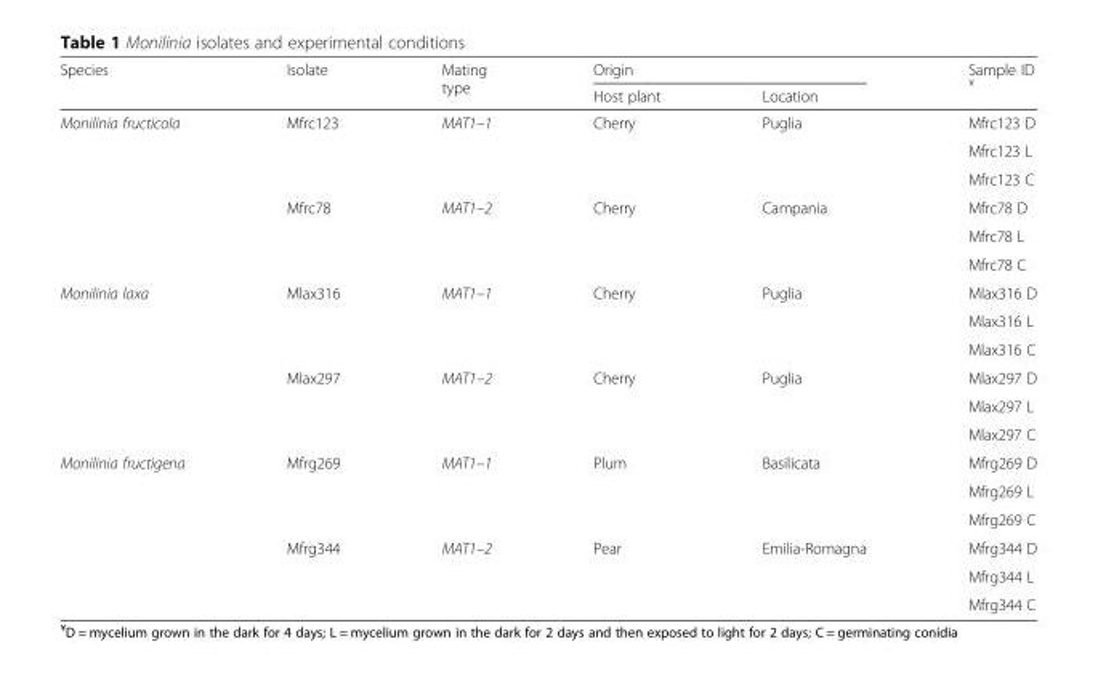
<table><thead><tr><td rowspan="2">Species</td><td rowspan="2">Isolate</td><td rowspan="2">Mating type</td><td colspan="2">Origin</td><td rowspan="2">Sample ID <sup>¥</sup></td></tr><tr><td>Host plant</td><td>Location</td></tr></thead><tbody><tr><td rowspan="6">Monilinia fructicola</td><td rowspan="3">Mfrc123</td><td rowspan="3">MAT1–1</td><td rowspan="3">Cherry</td><td rowspan="3">Puglia</td><td>Mfrc123 D</td></tr><tr><td>Mfrc123 L</td></tr><tr><td>Mfrc123 C</td></tr><tr><td rowspan="3">Mfrc78</td><td rowspan="3">MAT1–2</td><td rowspan="3">Cherry</td><td rowspan="3">Campania</td><td>Mfrc78 D</td></tr><tr><td>Mfrc78 L</td></tr><tr><td>Mfrc78 C</td></tr><tr><td rowspan="6">Monilinia laxa</td><td rowspan="3">Mlax316</td><td rowspan="3">MAT1–1</td><td rowspan="3">Cherry</td><td rowspan="3">Puglia</td><td>Mlax316 D</td></tr><tr><td>Mlax316 L</td></tr><tr><td>Mlax316 C</td></tr><tr><td rowspan="3">Mlax297</td><td rowspan="3">MAT1–2</td><td rowspan="3">Cherry</td><td rowspan="3">Puglia</td><td>Mlax297 D</td></tr><tr><td>Mlax297 L</td></tr><tr><td>Mlax297 C</td></tr><tr><td rowspan="6">Monilinia fructigena</td><td rowspan="3">Mfrg269</td><td rowspan="3">MAT1–1</td><td rowspan="3">Plum</td><td rowspan="3">Basilicata</td><td>Mfrg269 D</td></tr><tr><td>Mfrg269 L</td></tr><tr><td>Mfrg269 C</td></tr><tr><td rowspan="3">Mfrg344</td><td rowspan="3">MAT1–2</td><td rowspan="3">Pear</td><td rowspan="3">Emilia-Romagna</td><td>Mfrg344 D</td></tr><tr><td>Mfrg344 L</td></tr><tr><td>Mfrg344 C</td></tr></tbody></table>